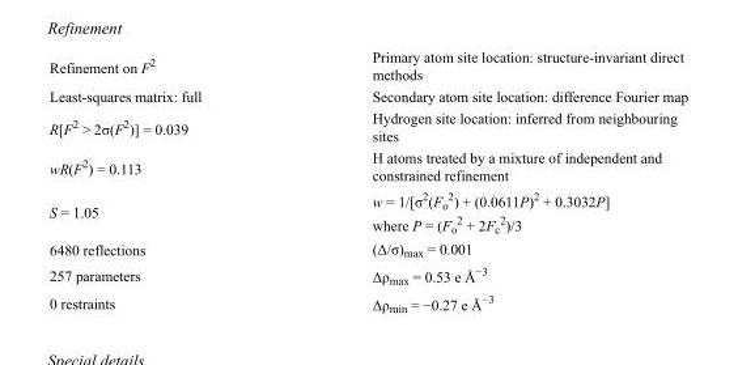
<table><tbody><tr><td>Refinement on F<sup>2</sup></td><td>Primary atom site location: structure-invariant direct methods</td></tr><tr><td>Least-squares matrix: full</td><td>Secondary atom site location: difference Fourier map</td></tr><tr><td>R[F<sup>2</sup> &gt; 2σ(F<sup>2</sup>)] = 0.039</td><td>Hydrogen site location: inferred from neighbouring sites</td></tr><tr><td>wR(F<sup>2</sup>) = 0.113</td><td>H atoms treated by a mixture of independent and constrained refinement</td></tr><tr><td>S = 1.05</td><td>w = 1/[σ<sup>2</sup>(F<sub>o</sub> <sup>2</sup>) + (0.0611P)<sup>2</sup> + 0.3032P] where P = (F<sub>o</sub> <sup>2</sup> + 2F<sub>c</sub> <sup>2</sup>)/3</td></tr><tr><td>6480 reflections</td><td>(Δ/σ)<sub>max</sub> = 0.001</td></tr><tr><td>257 parameters</td><td>Δρ<sub>max</sub> = 0.53 e Å<sup>−3</sup></td></tr><tr><td>0 restraints</td><td>Δρ<sub>min</sub> = −0.27 e Å<sup>−3</sup></td></tr></tbody></table>